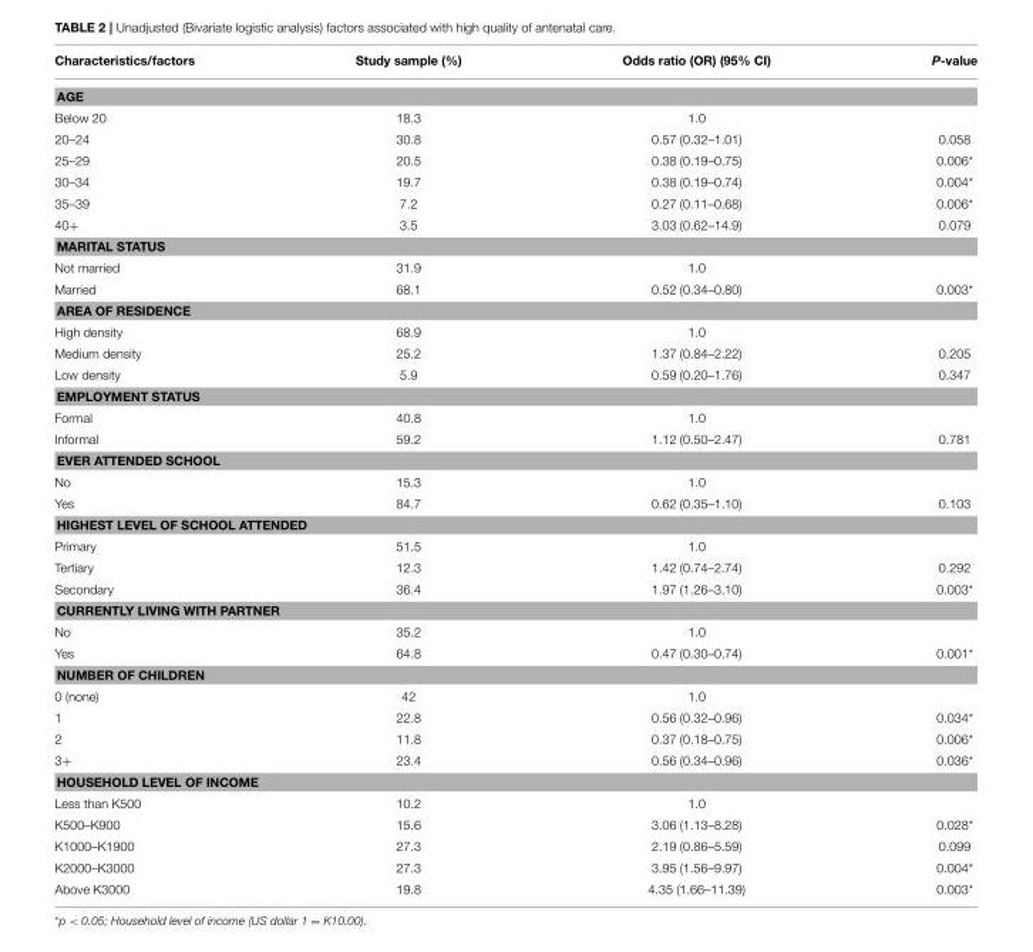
<table><thead><tr><td>Characteristics/factors</td><td>Study sample (%)</td><td>Odds ratio (OR) (95% CI)</td><td>P-value</td></tr></thead><tbody><tr><td colspan="4">AGE</td></tr><tr><td>Below 20</td><td>18.3</td><td>1.0</td><td></td></tr><tr><td>20–24</td><td>30.8</td><td>0.57 (0.32–1.01)</td><td>0.058</td></tr><tr><td>25–29</td><td>20.5</td><td>0.38 (0.19–0.75)</td><td>0.006*</td></tr><tr><td>30–34</td><td>19.7</td><td>0.38 (0.19–0.74)</td><td>0.004*</td></tr><tr><td>35–39</td><td>7.2</td><td>0.27 (0.11–0.68)</td><td>0.006*</td></tr><tr><td>40+</td><td>3.5</td><td>3.03 (0.62–14.9)</td><td>0.079</td></tr><tr><td colspan="4">MARITAL STATUS</td></tr><tr><td>Not married</td><td>31.9</td><td>1.0</td><td></td></tr><tr><td>Married</td><td>68.1</td><td>0.52 (0.34–0.80)</td><td>0.003*</td></tr><tr><td colspan="4">AREA OF RESIDENCE</td></tr><tr><td>High density</td><td>68.9</td><td>1.0</td><td></td></tr><tr><td>Medium density</td><td>25.2</td><td>1.37 (0.84–2.22)</td><td>0.205</td></tr><tr><td>Low density</td><td>5.9</td><td>0.59 (0.20–1.76)</td><td>0.347</td></tr><tr><td colspan="4">EMPLOYMENT STATUS</td></tr><tr><td>Formal</td><td>40.8</td><td>1.0</td><td></td></tr><tr><td>Informal</td><td>59.2</td><td>1.12 (0.50–2.47)</td><td>0.781</td></tr><tr><td colspan="4">EVER ATTENDED SCHOOL</td></tr><tr><td>No</td><td>15.3</td><td>1.0</td><td></td></tr><tr><td>Yes</td><td>84.7</td><td>0.62 (0.35–1.10)</td><td>0.103</td></tr><tr><td colspan="4">HIGHEST LEVEL OF SCHOOL ATTENDED</td></tr><tr><td>Primary</td><td>51.5</td><td>1.0</td><td></td></tr><tr><td>Tertiary</td><td>12.3</td><td>1.42 (0.74–2.74)</td><td>0.292</td></tr><tr><td>Secondary</td><td>36.4</td><td>1.97 (1.26–3.10)</td><td>0.003*</td></tr><tr><td colspan="4">CURRENTLY LIVING WITH PARTNER</td></tr><tr><td>No</td><td>35.2</td><td>1.0</td><td></td></tr><tr><td>Yes</td><td>64.8</td><td>0.47 (0.30–0.74)</td><td>0.001*</td></tr><tr><td colspan="4">NUMBER OF CHILDREN</td></tr><tr><td>0 (none)</td><td>42</td><td>1.0</td><td></td></tr><tr><td>1</td><td>22.8</td><td>0.56 (0.32–0.96)</td><td>0.034*</td></tr><tr><td>2</td><td>11.8</td><td>0.37 (0.18–0.75)</td><td>0.006*</td></tr><tr><td>3+</td><td>23.4</td><td>0.56 (0.34–0.96)</td><td>0.036*</td></tr><tr><td colspan="4">HOUSEHOLD LEVEL OF INCOME</td></tr><tr><td>Less than K500</td><td>10.2</td><td>1.0</td><td></td></tr><tr><td>K500–K900</td><td>15.6</td><td>3.06 (1.13–8.28)</td><td>0.028*</td></tr><tr><td>K1000–K1900</td><td>27.3</td><td>2.19 (0.86–5.59)</td><td>0.099</td></tr><tr><td>K2000–K3000</td><td>27.3</td><td>3.95 (1.56–9.97)</td><td>0.004*</td></tr><tr><td>Above K3000</td><td>19.8</td><td>4.35 (1.66–11.39)</td><td>0.003*</td></tr></tbody></table>